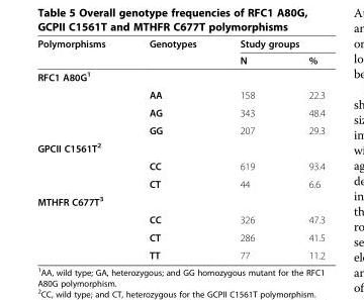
<table><thead><tr><td rowspan="2">Polymorphisms</td><td rowspan="2">Genotypes</td><td colspan="2">Study groups</td></tr><tr><td>N</td><td>%</td></tr></thead><tbody><tr><td colspan="4">RFC1 A80G<sup>1</sup></td></tr><tr><td rowspan="3"></td><td>AA</td><td>158</td><td>22.3</td></tr><tr><td>AG</td><td>343</td><td>48.4</td></tr><tr><td>GG</td><td>207</td><td>29.3</td></tr><tr><td colspan="4">GPCII C1561T<sup>2</sup></td></tr><tr><td rowspan="2"></td><td>CC</td><td>619</td><td>93.4</td></tr><tr><td>CT</td><td>44</td><td>6.6</td></tr><tr><td colspan="4">MTHFR C677T<sup>3</sup></td></tr><tr><td rowspan="3"></td><td>CC</td><td>326</td><td>47.3</td></tr><tr><td>CT</td><td>286</td><td>41.5</td></tr><tr><td>TT</td><td>77</td><td>11.2</td></tr></tbody></table>